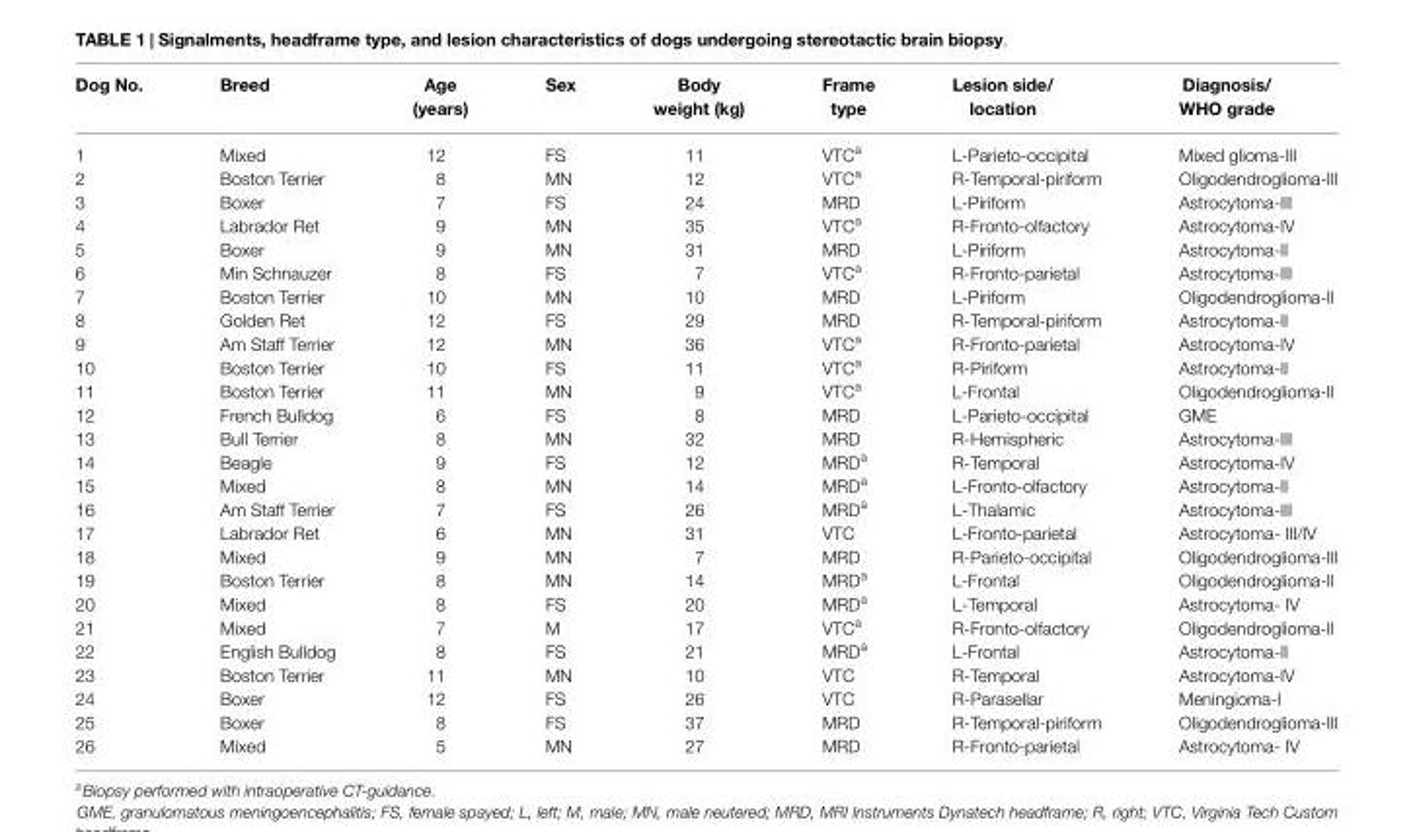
<table><thead><tr><td>Dog No.</td><td>Breed</td><td>Age (years)</td><td>Sex</td><td>Body weight (kg)</td><td>Frame type</td><td>Lesion side/ location</td><td>Diagnosis/ WHO grade</td></tr></thead><tbody><tr><td>1</td><td>Mixed</td><td>12</td><td>FS</td><td>11</td><td>VTC<sup>a</sup></td><td>L-Parieto-occipital</td><td>Mixed glioma-III</td></tr><tr><td>2</td><td>Boston Terrier</td><td>8</td><td>MN</td><td>12</td><td>VTC<sup>a</sup></td><td>R-Temporal-piriform</td><td>Oligodendroglioma-III</td></tr><tr><td>3</td><td>Boxer</td><td>7</td><td>FS</td><td>24</td><td>MRD</td><td>L-Piriform</td><td>Astrocytoma-III</td></tr><tr><td>4</td><td>Labrador Ret</td><td>9</td><td>MN</td><td>35</td><td>VTC<sup>a</sup></td><td>R-Fronto-olfactory</td><td>Astrocytoma-IV</td></tr><tr><td>5</td><td>Boxer</td><td>9</td><td>MN</td><td>31</td><td>MRD</td><td>L-Piriform</td><td>Astrocytoma-II</td></tr><tr><td>6</td><td>Min Schnauzer</td><td>8</td><td>FS</td><td>7</td><td>VTC<sup>a</sup></td><td>R-Fronto-parietal</td><td>Astrocytoma-III</td></tr><tr><td>7</td><td>Boston Terrier</td><td>10</td><td>MN</td><td>10</td><td>MRD</td><td>L-Piriform</td><td>Oligodendroglioma-II</td></tr><tr><td>8</td><td>Golden Ret</td><td>12</td><td>FS</td><td>29</td><td>MRD</td><td>R-Temporal-piriform</td><td>Astrocytoma-II</td></tr><tr><td>9</td><td>Am Staff Terrier</td><td>12</td><td>MN</td><td>36</td><td>VTC<sup>a</sup></td><td>R-Fronto-parietal</td><td>Astrocytoma-IV</td></tr><tr><td>10</td><td>Boston Terrier</td><td>10</td><td>FS</td><td>11</td><td>VTC<sup>a</sup></td><td>R-Piriform</td><td>Astrocytoma-II</td></tr><tr><td>11</td><td>Boston Terrier</td><td>11</td><td>MN</td><td>9</td><td>VTC<sup>a</sup></td><td>L-Frontal</td><td>Oligodendroglioma-II</td></tr><tr><td>12</td><td>French Bulldog</td><td>6</td><td>FS</td><td>8</td><td>MRD</td><td>L-Parieto-occipital</td><td>GME</td></tr><tr><td>13</td><td>Bull Terrier</td><td>8</td><td>MN</td><td>32</td><td>MRD</td><td>R-Hemispheric</td><td>Astrocytoma-III</td></tr><tr><td>14</td><td>Beagle</td><td>9</td><td>FS</td><td>12</td><td>MRD<sup>a</sup></td><td>R-Temporal</td><td>Astrocytoma-IV</td></tr><tr><td>15</td><td>Mixed</td><td>8</td><td>MN</td><td>14</td><td>MRD<sup>a</sup></td><td>L-Fronto-olfactory</td><td>Astrocytoma-II</td></tr><tr><td>16</td><td>Am Staff Terrier</td><td>7</td><td>FS</td><td>26</td><td>MRD<sup>a</sup></td><td>L-Thalamic</td><td>Astrocytoma-III</td></tr><tr><td>17</td><td>Labrador Ret</td><td>6</td><td>MN</td><td>31</td><td>VTC</td><td>L-Fronto-parietal</td><td>Astrocytoma- III/IV</td></tr><tr><td>18</td><td>Mixed</td><td>9</td><td>MN</td><td>7</td><td>MRD</td><td>R-Parieto-occipital</td><td>Oligodendroglioma-III</td></tr><tr><td>19</td><td>Boston Terrier</td><td>8</td><td>MN</td><td>14</td><td>MRD<sup>a</sup></td><td>L-Frontal</td><td>Oligodendroglioma-II</td></tr><tr><td>20</td><td>Mixed</td><td>8</td><td>FS</td><td>20</td><td>MRD<sup>a</sup></td><td>L-Temporal</td><td>Astrocytoma- IV</td></tr><tr><td>21</td><td>Mixed</td><td>7</td><td>M</td><td>17</td><td>VTC<sup>a</sup></td><td>R-Fronto-olfactory</td><td>Oligodendroglioma-II</td></tr><tr><td>22</td><td>English Bulldog</td><td>8</td><td>FS</td><td>21</td><td>MRD<sup>a</sup></td><td>L-Frontal</td><td>Astrocytoma-II</td></tr><tr><td>23</td><td>Boston Terrier</td><td>11</td><td>MN</td><td>10</td><td>VTC</td><td>R-Temporal</td><td>Astrocytoma-IV</td></tr><tr><td>24</td><td>Boxer</td><td>12</td><td>FS</td><td>26</td><td>VTC</td><td>R-Parasellar</td><td>Meningioma-I</td></tr><tr><td>25</td><td>Boxer</td><td>8</td><td>FS</td><td>37</td><td>MRD</td><td>R-Temporal-piriform</td><td>Oligodendroglioma-III</td></tr><tr><td>26</td><td>Mixed</td><td>5</td><td>MN</td><td>27</td><td>MRD</td><td>R-Fronto-parietal</td><td>Astrocytoma- IV</td></tr></tbody></table>